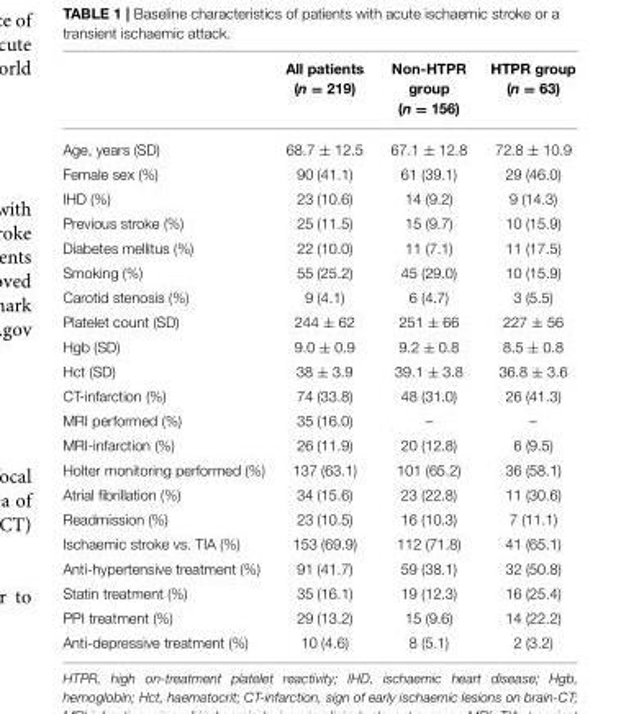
<table><thead><tr><td></td><td>All patients (n = 219)</td><td>Non-HTPR group (n = 156)</td><td>HTPR group (n = 63)</td></tr></thead><tbody><tr><td>Age, years (SD)</td><td>68.7 ± 12.5</td><td>67.1 ± 12.8</td><td>72.8 ± 10.9</td></tr><tr><td>Female sex (%)</td><td>90 (41.1)</td><td>61 (39.1)</td><td>29 (46.0)</td></tr><tr><td>IHD (%)</td><td>23 (10.6)</td><td>14 (9.2)</td><td>9 (14.3)</td></tr><tr><td>Previous stroke (%)</td><td>25 (11.5)</td><td>15 (9.7)</td><td>10 (15.9)</td></tr><tr><td>Diabetes mellitus (%)</td><td>22 (10.0)</td><td>11 (7.1)</td><td>11 (17.5)</td></tr><tr><td>Smoking (%)</td><td>55 (25.2)</td><td>45 (29.0)</td><td>10 (15.9)</td></tr><tr><td>Carotid stenosis (%)</td><td>9 (4.1)</td><td>6 (4.7)</td><td>3 (5.5)</td></tr><tr><td>Platelet count (SD)</td><td>244 ± 62</td><td>251 ± 66</td><td>227 ± 56</td></tr><tr><td>Hgb (SD)</td><td>9.0 ± 0.9</td><td>9.2 ± 0.8</td><td>8.5 ± 0.8</td></tr><tr><td>Hct (SD)</td><td>38 ± 3.9</td><td>39.1 ± 3.8</td><td>36.8 ± 3.6</td></tr><tr><td>CT-infarction (%)</td><td>74 (33.8)</td><td>48 (31.0)</td><td>26 (41.3)</td></tr><tr><td>MRI performed (%)</td><td>35 (16.0)</td><td>–</td><td>–</td></tr><tr><td>MRI-infarction (%)</td><td>26 (11.9)</td><td>20 (12.8)</td><td>6 (9.5)</td></tr><tr><td>Holter monitoring performed (%)</td><td>137 (63.1)</td><td>101 (65.2)</td><td>36 (58.1)</td></tr><tr><td>Atrial fibrillation (%)</td><td>34 (15.6)</td><td>23 (22.8)</td><td>11 (30.6)</td></tr><tr><td>Readmission (%)</td><td>23 (10.5)</td><td>16 (10.3)</td><td>7 (11.1)</td></tr><tr><td>Ischaemic stroke vs. TIA (%)</td><td>153 (69.9)</td><td>112 (71.8)</td><td>41 (65.1)</td></tr><tr><td>Anti-hypertensive treatment (%)</td><td>91 (41.7)</td><td>59 (38.1)</td><td>32 (50.8)</td></tr><tr><td>Statin treatment (%)</td><td>35 (16.1)</td><td>19 (12.3)</td><td>16 (25.4)</td></tr><tr><td>PPI treatment (%)</td><td>29 (13.2)</td><td>15 (9.6)</td><td>14 (22.2)</td></tr><tr><td>Anti-depressive treatment (%)</td><td>10 (4.6)</td><td>8 (5.1)</td><td>2 (3.2)</td></tr></tbody></table>